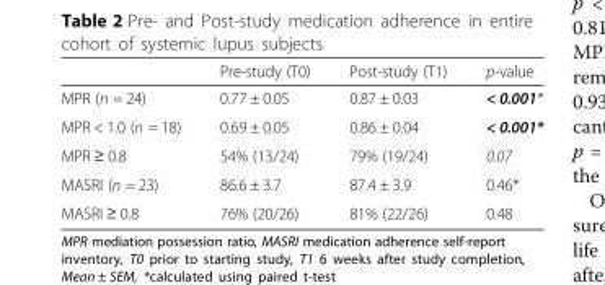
<table><thead><tr><td></td><td>Pre-study (T0)</td><td>Post-study (T1)</td><td>p-value</td></tr></thead><tbody><tr><td>MPR (n = 24)</td><td>0.77 ± 0.05</td><td>0.87 ± 0.03</td><td>&lt; 0.001*</td></tr><tr><td>MPR &lt; 1.0 (n = 18)</td><td>0.69 ± 0.05</td><td>0.86 ± 0.04</td><td>&lt; 0.001*</td></tr><tr><td>MPR ≥ 0.8</td><td>54% (13/24)</td><td>79% (19/24)</td><td>0.07</td></tr><tr><td>MASRI (n = 23)</td><td>86.6 ± 3.7</td><td>87.4 ± 3.9</td><td>0.46*</td></tr><tr><td>MASRI ≥ 0.8</td><td>76% (20/26)</td><td>81% (22/26)</td><td>0.48</td></tr></tbody></table>